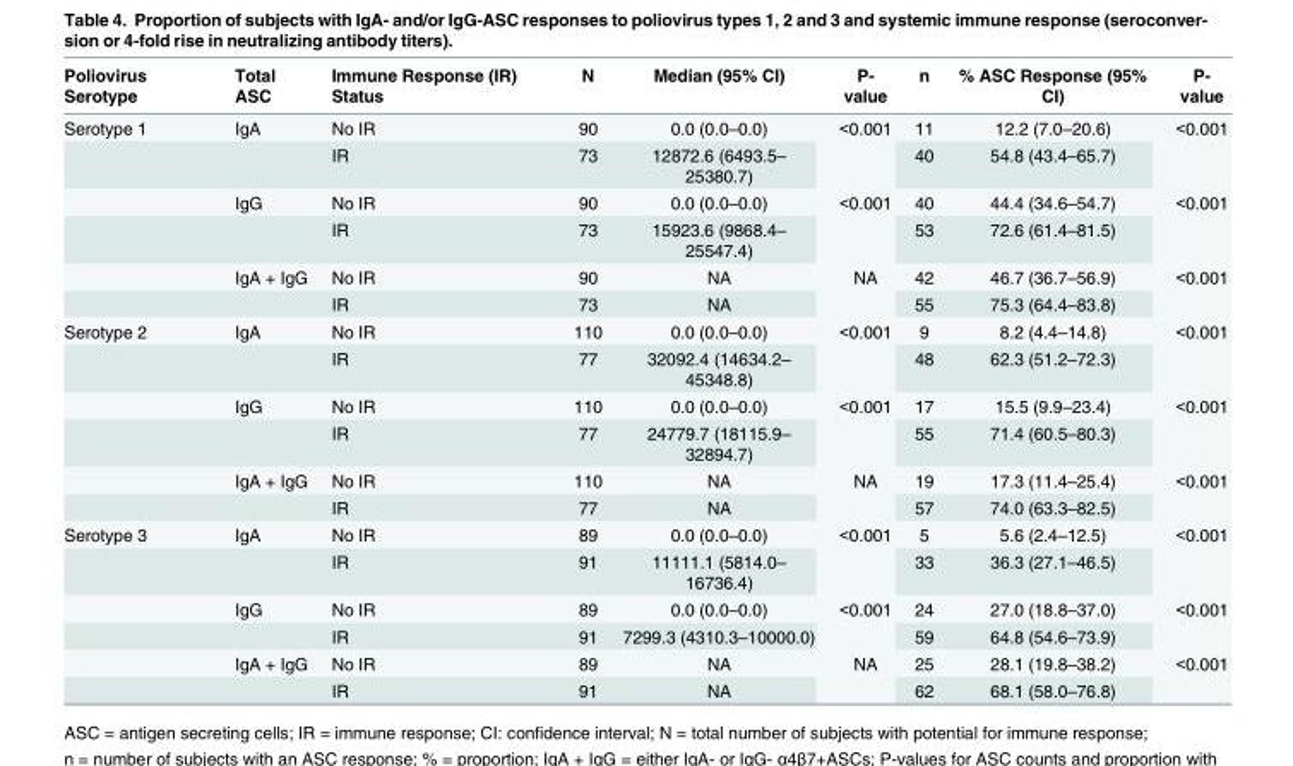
<table><thead><tr><td>Poliovirus Serotype</td><td>Total ASC</td><td>Immune Response (IR) Status</td><td>N</td><td>Median (95% CI)</td><td>P- value</td><td>n</td><td>% ASC Response (95% CI)</td><td>P- value</td></tr></thead><tbody><tr><td rowspan="6">Serotype 1</td><td>IgA</td><td>No IR</td><td>90</td><td>0.0 (0.0–0.0)</td><td rowspan="2">&lt;0.001</td><td>11</td><td>12.2 (7.0–20.6)</td><td rowspan="2">&lt;0.001</td></tr><tr><td></td><td>IR</td><td>73</td><td>12872.6 (6493.5– 25380.7)</td><td>40</td><td>54.8 (43.4–65.7)</td></tr><tr><td>IgG</td><td>No IR</td><td>90</td><td>0.0 (0.0–0.0)</td><td rowspan="2">&lt;0.001</td><td>40</td><td>44.4 (34.6–54.7)</td><td rowspan="2">&lt;0.001</td></tr><tr><td></td><td>IR</td><td>73</td><td>15923.6 (9868.4– 25547.4)</td><td>53</td><td>72.6 (61.4–81.5)</td></tr><tr><td>IgA + IgG</td><td>No IR</td><td>90</td><td>NA</td><td rowspan="2">NA</td><td>42</td><td>46.7 (36.7–56.9)</td><td rowspan="2">&lt;0.001</td></tr><tr><td></td><td>IR</td><td>73</td><td>NA</td><td>55</td><td>75.3 (64.4–83.8)</td></tr><tr><td rowspan="6">Serotype 2</td><td>IgA</td><td>No IR</td><td>110</td><td>0.0 (0.0–0.0)</td><td rowspan="2">&lt;0.001</td><td>9</td><td>8.2 (4.4–14.8)</td><td rowspan="2">&lt;0.001</td></tr><tr><td></td><td>IR</td><td>77</td><td>32092.4 (14634.2– 45348.8)</td><td>48</td><td>62.3 (51.2–72.3)</td></tr><tr><td>IgG</td><td>No IR</td><td>110</td><td>0.0 (0.0–0.0)</td><td rowspan="2">&lt;0.001</td><td>17</td><td>15.5 (9.9–23.4)</td><td rowspan="2">&lt;0.001</td></tr><tr><td></td><td>IR</td><td>77</td><td>24779.7 (18115.9– 32894.7)</td><td>55</td><td>71.4 (60.5–80.3)</td></tr><tr><td>IgA + IgG</td><td>No IR</td><td>110</td><td>NA</td><td rowspan="2">NA</td><td>19</td><td>17.3 (11.4–25.4)</td><td rowspan="2">&lt;0.001</td></tr><tr><td></td><td>IR</td><td>77</td><td>NA</td><td>57</td><td>74.0 (63.3–82.5)</td></tr><tr><td rowspan="6">Serotype 3</td><td>IgA</td><td>No IR</td><td>89</td><td>0.0 (0.0–0.0)</td><td rowspan="2">&lt;0.001</td><td>5</td><td>5.6 (2.4–12.5)</td><td rowspan="2">&lt;0.001</td></tr><tr><td></td><td>IR</td><td>91</td><td>11111.1 (5814.0– 16736.4)</td><td>33</td><td>36.3 (27.1–46.5)</td></tr><tr><td>IgG</td><td>No IR</td><td>89</td><td>0.0 (0.0–0.0)</td><td rowspan="2">&lt;0.001</td><td>24</td><td>27.0 (18.8–37.0)</td><td rowspan="2">&lt;0.001</td></tr><tr><td></td><td>IR</td><td>91</td><td>7299.3 (4310.3–10000.0)</td><td>59</td><td>64.8 (54.6–73.9)</td></tr><tr><td>IgA + IgG</td><td>No IR</td><td>89</td><td>NA</td><td rowspan="2">NA</td><td>25</td><td>28.1 (19.8–38.2)</td><td rowspan="2">&lt;0.001</td></tr><tr><td></td><td>IR</td><td>91</td><td>NA</td><td>62</td><td>68.1 (58.0–76.8)</td></tr></tbody></table>